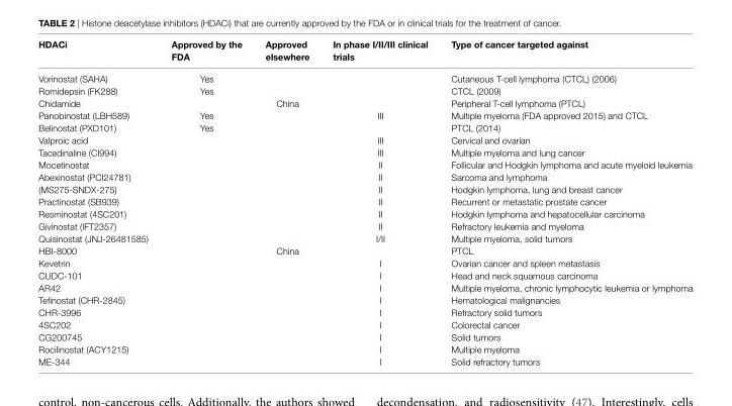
<table><thead><tr><td>HDACi</td><td>Approved by the FDA</td><td>Approved elsewhere</td><td>in phase i/ii/iii clinical trials</td><td>Type of cancer targeted against</td></tr></thead><tbody><tr><td>Vorinostat (SAHA)</td><td>Yes</td><td></td><td></td><td>Cutaneous T-cell lymphoma (CTCL) (2006)</td></tr><tr><td>Romidepsin (FK288)</td><td>Yes</td><td></td><td></td><td>CTCL (2009)</td></tr><tr><td>Chidamide</td><td></td><td>China</td><td></td><td>Peripheral T-cell lymphoma (PTCL)</td></tr><tr><td>Panobinostat (LBH589)</td><td>Yes</td><td></td><td>III</td><td>Multiple myeloma (FDA approved 2015) and CTCL</td></tr><tr><td>Belinostat (PXD101)</td><td>Yes</td><td></td><td></td><td>PTCL (2014)</td></tr><tr><td>Valproic acid</td><td></td><td></td><td>III</td><td>Cervical and ovarian</td></tr><tr><td>Tacedinaline (CI994)</td><td></td><td></td><td>III</td><td>Multiple myeloma and lung cancer</td></tr><tr><td>Mocetinostat</td><td></td><td></td><td>II</td><td>Follicular and Hodgkin lymphoma and acute myeloid leukemia</td></tr><tr><td>Abexinostat (PCI24781)</td><td></td><td></td><td>II</td><td>Sarcoma and lymphoma</td></tr><tr><td>(MS275-SNDX-275)</td><td></td><td></td><td>II</td><td>Hodgkin lymphoma, lung and breast cancer</td></tr><tr><td>Practinostat (SB939)</td><td></td><td></td><td>II</td><td>Recurrent or metastatic prostate cancer</td></tr><tr><td>Resminostat (4SC201)</td><td></td><td></td><td>II</td><td>Hodgkin lymphoma and hepatocellular carcinoma</td></tr><tr><td>Givinostat (IFT2357)</td><td></td><td></td><td>II</td><td>Refractory leukemia and myeloma</td></tr><tr><td>Quisinostat (JNJ-26481585)</td><td></td><td></td><td>I/II</td><td>Multiple myeloma, solid tumors</td></tr><tr><td>HBI-8000</td><td></td><td>China</td><td></td><td>PTCL</td></tr><tr><td>Kevetrin</td><td></td><td></td><td>I</td><td>Ovarian cancer and spleen metastasis</td></tr><tr><td>CUDC-101</td><td></td><td></td><td>I</td><td>Head and neck squamous carcinoma</td></tr><tr><td>AR42</td><td></td><td></td><td>I</td><td>Multiple myeloma, chronic lymphocytic leukemia or lymphoma</td></tr><tr><td>Tefinostat (CHR-2845)</td><td></td><td></td><td>I</td><td>Hematological malignancies</td></tr><tr><td>CHR-3996</td><td></td><td></td><td>I</td><td>Refractory solid tumors</td></tr><tr><td>4SC202</td><td></td><td></td><td>I</td><td>Colorectal cancer</td></tr><tr><td>CG200745</td><td></td><td></td><td>I</td><td>Solid tumors</td></tr><tr><td>Rocilinostat (ACY1215)</td><td></td><td></td><td>I</td><td>Multiple myeloma</td></tr><tr><td>ME-344</td><td></td><td></td><td>I</td><td>Solid refractory tumors</td></tr></tbody></table>